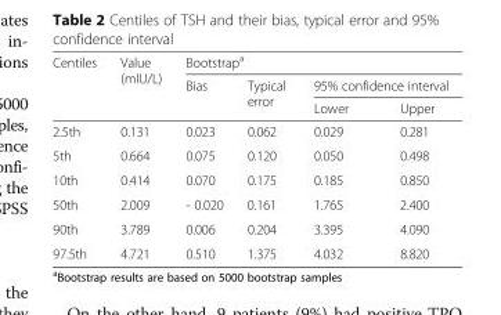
<table><thead><tr><td rowspan="3">Centiles</td><td rowspan="3">Value (mIU/L)</td><td colspan="4">Bootstrap<sup>a</sup></td></tr><tr><td rowspan="2">Bias</td><td rowspan="2">Typical error</td><td colspan="2">95% confidence interval</td></tr><tr><td>Lower</td><td>Upper</td></tr></thead><tbody><tr><td>2.5th</td><td>0.131</td><td>0.023</td><td>0.062</td><td>0.029</td><td>0.281</td></tr><tr><td>5th</td><td>0.664</td><td>0.075</td><td>0.120</td><td>0.050</td><td>0.498</td></tr><tr><td>10th</td><td>0.414</td><td>0.070</td><td>0.175</td><td>0.185</td><td>0.850</td></tr><tr><td>50th</td><td>2.009</td><td>- 0.020</td><td>0.161</td><td>1.765</td><td>2.400</td></tr><tr><td>90th</td><td>3.789</td><td>0.006</td><td>0.204</td><td>3.395</td><td>4.090</td></tr><tr><td>97.5th</td><td>4.721</td><td>0.510</td><td>1.375</td><td>4.032</td><td>8.820</td></tr></tbody></table>